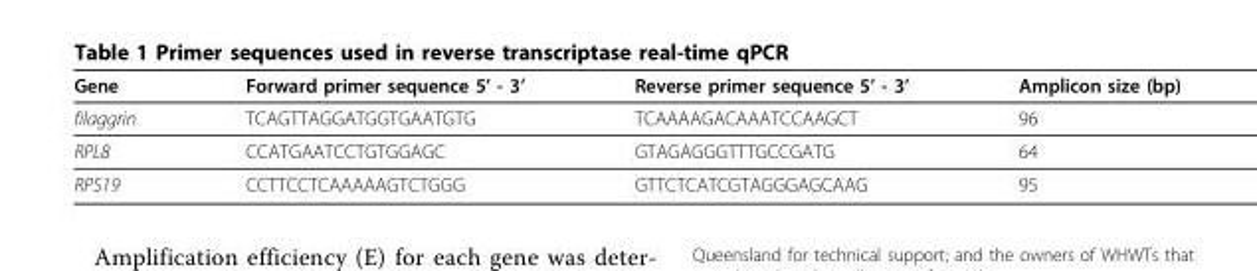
<table><thead><tr><td>Gene</td><td>Forward primer sequence 5’ - 3’</td><td>Reverse primer sequence 5’ - 3’</td><td>Amplicon size (bp)</td></tr></thead><tbody><tr><td>filaggrin</td><td>TCAGTTAGGATGGTGAATGTG</td><td>TCAAAAGACAAATCCAAGCT</td><td>96</td></tr><tr><td>RPL8</td><td>CCATGAATCCTGTGGAGC</td><td>GTAGAGGGTTTGCCGATG</td><td>64</td></tr><tr><td>RPS19</td><td>CCTTCCTCAAAAAGTCTGGG</td><td>GTTCTCATCGTAGGGAGCAAG</td><td>95</td></tr></tbody></table>